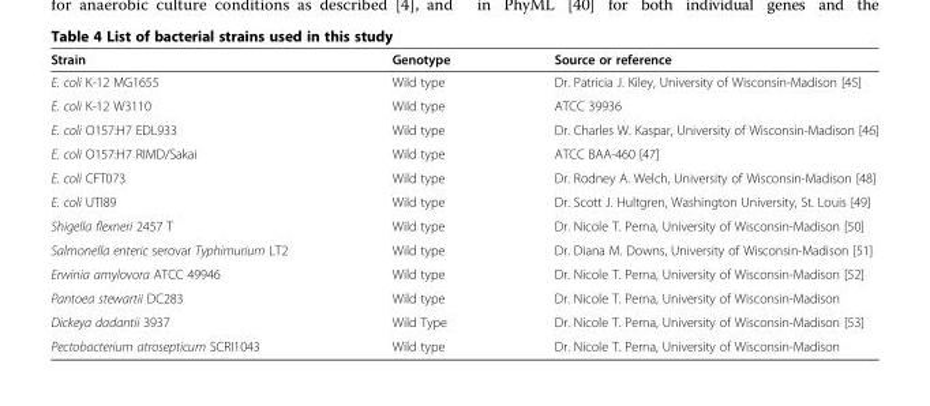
<table><thead><tr><td>Strain</td><td>Genotype</td><td>Source or reference</td></tr></thead><tbody><tr><td>E. coli K-12 MG1655</td><td>Wild type</td><td>Dr. Patricia J. Kiley, University of Wisconsin-Madison [45]</td></tr><tr><td>E. coli K-12 W3110</td><td>Wild type</td><td>ATCC 39936</td></tr><tr><td>E. coli O157:H7 EDL933</td><td>Wild type</td><td>Dr. Charles W. Kaspar, University of Wisconsin-Madison [46]</td></tr><tr><td>E. coli O157:H7 RIMD/Sakai</td><td>Wild type</td><td>ATCC BAA-460 [47]</td></tr><tr><td>E. coli CFT073</td><td>Wild type</td><td>Dr. Rodney A. Welch, University of Wisconsin-Madison [48]</td></tr><tr><td>E. coli UTI89</td><td>Wild type</td><td>Dr. Scott J. Hultgren, Washington University, St. Louis [49]</td></tr><tr><td>Shigella flexneri 2457 T</td><td>Wild type</td><td>Dr. Nicole T. Perna, University of Wisconsin-Madison [50]</td></tr><tr><td>Salmonella enteric serovar Typhimurium LT2</td><td>Wild type</td><td>Dr. Diana M. Downs, University of Wisconsin-Madison [51]</td></tr><tr><td>Erwinia amylovora ATCC 49946</td><td>Wild type</td><td>Dr. Nicole T. Perna, University of Wisconsin-Madison [52]</td></tr><tr><td>Pantoea stewartii DC283</td><td>Wild type</td><td>Dr. Nicole T. Perna, University of Wisconsin-Madison</td></tr><tr><td>Dickeya dadantii 3937</td><td>Wild Type</td><td>Dr. Nicole T. Perna, University of Wisconsin-Madison [53]</td></tr><tr><td>Pectobacterium atrosepticum SCRI1043</td><td>Wild type</td><td>Dr. Nicole T. Perna, University of Wisconsin-Madison</td></tr></tbody></table>